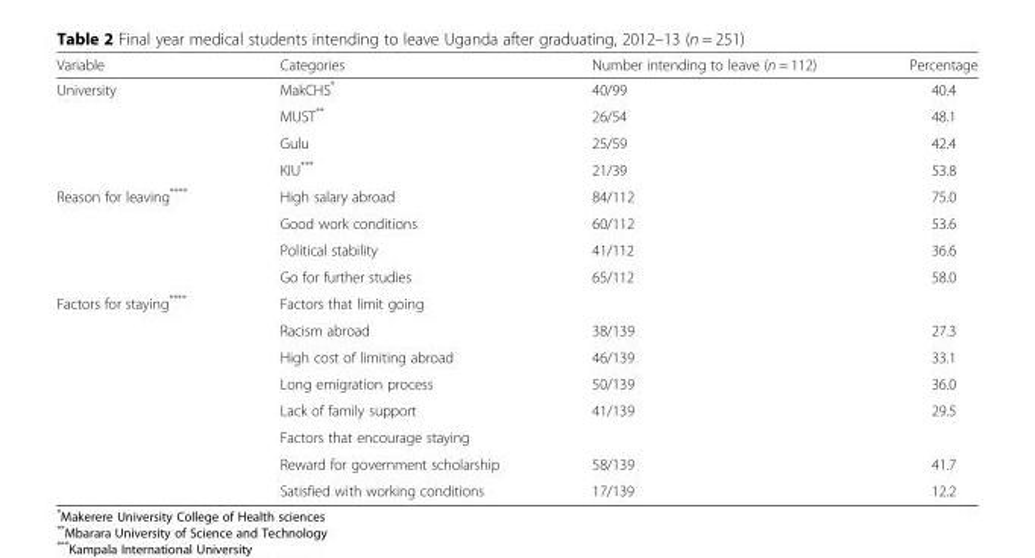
<table><thead><tr><td>Variable</td><td>Categories</td><td>Number intending to leave (n = 112)</td><td>Percentage</td></tr></thead><tbody><tr><td rowspan="4">University</td><td>MakCHS*</td><td>40/99</td><td>40.4</td></tr><tr><td>MUST**</td><td>26/54</td><td>48.1</td></tr><tr><td>Gulu</td><td>25/59</td><td>42.4</td></tr><tr><td>KIU***</td><td>21/39</td><td>53.8</td></tr><tr><td rowspan="4">Reason for leaving****</td><td>High salary abroad</td><td>84/112</td><td>75.0</td></tr><tr><td>Good work conditions</td><td>60/112</td><td>53.6</td></tr><tr><td>Political stability</td><td>41/112</td><td>36.6</td></tr><tr><td>Go for further studies</td><td>65/112</td><td>58.0</td></tr><tr><td rowspan="8">Factors for staying****</td><td>Factors that limit going</td><td></td><td></td></tr><tr><td>Racism abroad</td><td>38/139</td><td>27.3</td></tr><tr><td>High cost of limiting abroad</td><td>46/139</td><td>33.1</td></tr><tr><td>Long emigration process</td><td>50/139</td><td>36.0</td></tr><tr><td>Lack of family support</td><td>41/139</td><td>29.5</td></tr><tr><td>Factors that encourage staying</td><td></td><td></td></tr><tr><td>Reward for government scholarship</td><td>58/139</td><td>41.7</td></tr><tr><td>Satisfied with working conditions</td><td>17/139</td><td>12.2</td></tr></tbody></table>